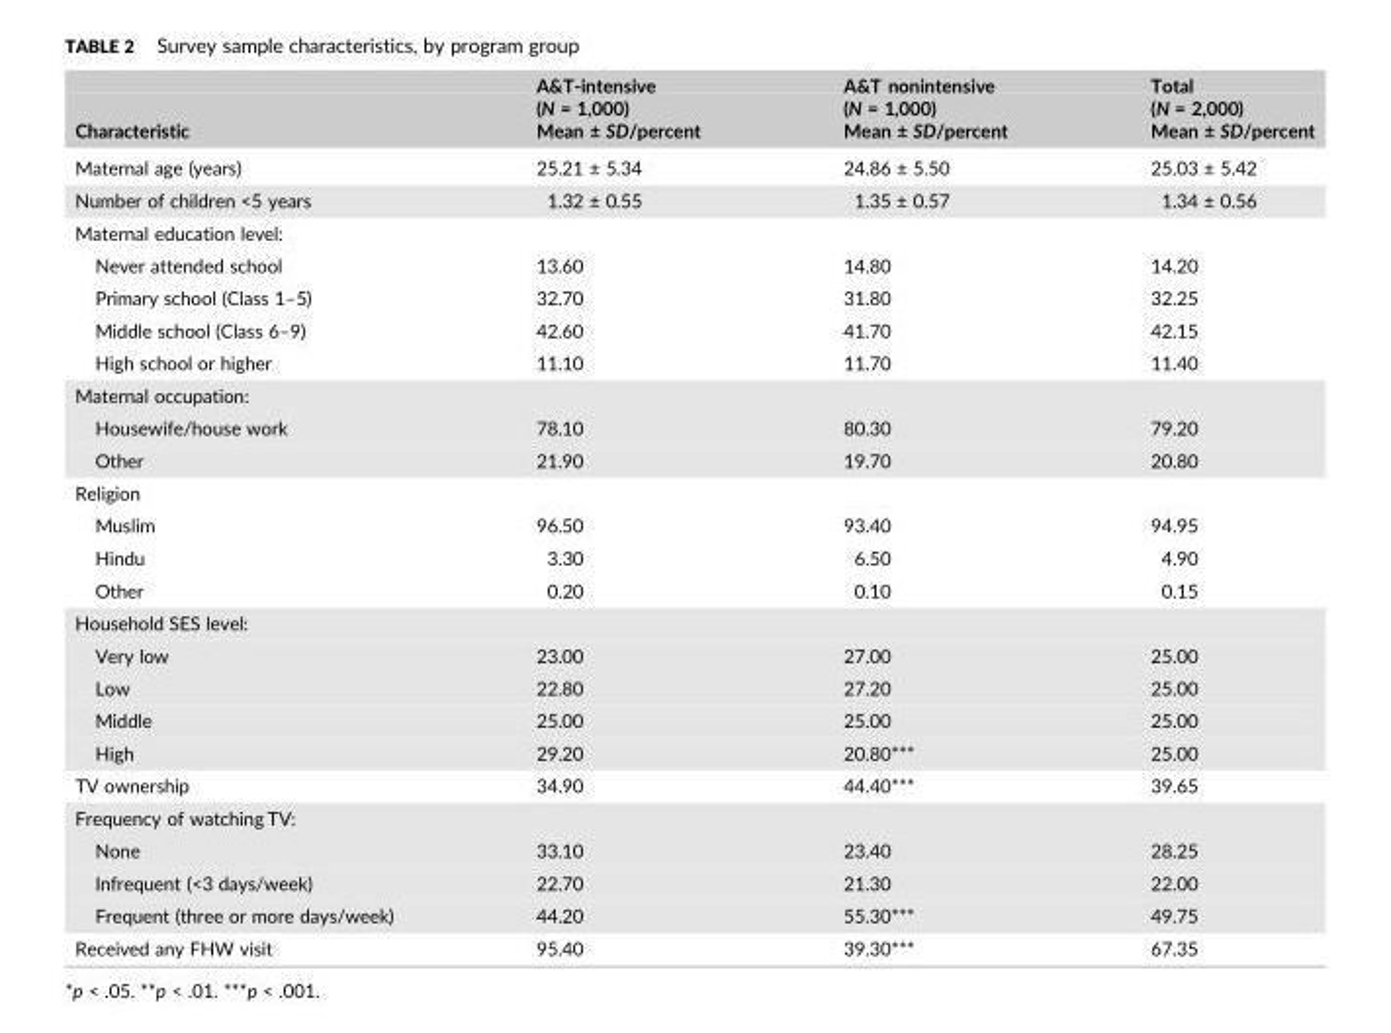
<table><thead><tr><td rowspan="3">Characteristic</td><td rowspan="3">A&amp;T‐intensive (N = 1,000) Mean ± SD/percent</td><td rowspan="3">A&amp;T nonintensive (N = 1,000) Mean ± SD/percent</td><td rowspan="3">Total (N = 2,000) Mean ± SD/percent</td></tr><tr></tr><tr></tr></thead><tbody><tr><td>Maternal age (years)</td><td>25.21 ± 5.34</td><td>24.86 ± 5.50</td><td>25.03 ± 5.42</td></tr><tr><td>Number of children &lt;5 years</td><td>1.32 ± 0.55</td><td>1.35 ± 0.57</td><td>1.34 ± 0.56</td></tr><tr><td colspan="4">Maternal education level:</td></tr><tr><td>Never attended school</td><td>13.60</td><td>14.80</td><td>14.20</td></tr><tr><td>Primary school (Class 1–5)</td><td>32.70</td><td>31.80</td><td>32.25</td></tr><tr><td>Middle school (Class 6–9)</td><td>42.60</td><td>41.70</td><td>42.15</td></tr><tr><td>High school or higher</td><td>11.10</td><td>11.70</td><td>11.40</td></tr><tr><td colspan="4">Maternal occupation:</td></tr><tr><td>Housewife/house work</td><td>78.10</td><td>80.30</td><td>79.20</td></tr><tr><td>Other</td><td>21.90</td><td>19.70</td><td>20.80</td></tr><tr><td colspan="4">Religion</td></tr><tr><td>Muslim</td><td>96.50</td><td>93.40</td><td>94.95</td></tr><tr><td>Hindu</td><td>3.30</td><td>6.50</td><td>4.90</td></tr><tr><td>Other</td><td>0.20</td><td>0.10</td><td>0.15</td></tr><tr><td colspan="4">Household SES level:</td></tr><tr><td>Very low</td><td>23.00</td><td>27.00</td><td>25.00</td></tr><tr><td>Low</td><td>22.80</td><td>27.20</td><td>25.00</td></tr><tr><td>Middle</td><td>25.00</td><td>25.00</td><td>25.00</td></tr><tr><td>High</td><td>29.20</td><td>20.80***</td><td>25.00</td></tr><tr><td>TV ownership</td><td>34.90</td><td>44.40***</td><td>39.65</td></tr><tr><td colspan="4">Frequency of watching TV:</td></tr><tr><td>None</td><td>33.10</td><td>23.40</td><td>28.25</td></tr><tr><td>Infrequent (&lt;3 days/week)</td><td>22.70</td><td>21.30</td><td>22.00</td></tr><tr><td>Frequent (three or more days/week)</td><td>44.20</td><td>55.30***</td><td>49.75</td></tr><tr><td>Received any FHW visit</td><td>95.40</td><td>39.30***</td><td>67.35</td></tr></tbody></table>